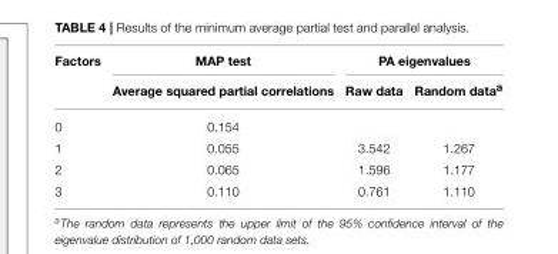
<table><thead><tr><td rowspan="2">Factors</td><td rowspan="2">MAP test Average squared partial correlations</td><td colspan="2">PA eigenvalues</td></tr><tr><td>Raw data</td><td>Random data<sup>a</sup></td></tr></thead><tbody><tr><td>0</td><td>0.154</td><td></td><td></td></tr><tr><td>1</td><td>0.055</td><td>3.542</td><td>1.267</td></tr><tr><td>2</td><td>0.065</td><td>1.596</td><td>1.177</td></tr><tr><td>3</td><td>0.110</td><td>0.761</td><td>1.110</td></tr></tbody></table>